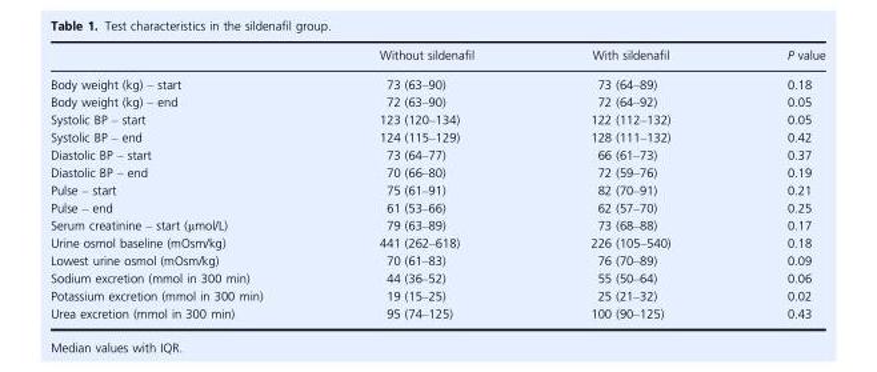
<table><thead><tr><td></td><td>Without sildenafil</td><td>With sildenafil</td><td>P value</td></tr></thead><tbody><tr><td>Body weight (kg) – start</td><td>73 (63–90)</td><td>73 (64–89)</td><td>0.18</td></tr><tr><td>Body weight (kg) – end</td><td>72 (63–90)</td><td>72 (64–92)</td><td>0.05</td></tr><tr><td>Systolic BP – start</td><td>123 (120–134)</td><td>122 (112–132)</td><td>0.05</td></tr><tr><td>Systolic BP – end</td><td>124 (115–129)</td><td>128 (111–132)</td><td>0.42</td></tr><tr><td>Diastolic BP – start</td><td>73 (64–77)</td><td>66 (61–73)</td><td>0.37</td></tr><tr><td>Diastolic BP – end</td><td>70 (66–80)</td><td>72 (59–76)</td><td>0.19</td></tr><tr><td>Pulse – start</td><td>75 (61–91)</td><td>82 (70–91)</td><td>0.21</td></tr><tr><td>Pulse – end</td><td>61 (53–66)</td><td>62 (57–70)</td><td>0.25</td></tr><tr><td>Serum creatinine – start (μmol/L)</td><td>79 (63–89)</td><td>73 (68–88)</td><td>0.17</td></tr><tr><td>Urine osmol baseline (mOsm/kg)</td><td>441 (262–618)</td><td>226 (105–540)</td><td>0.18</td></tr><tr><td>Lowest urine osmol (mOsm/kg)</td><td>70 (61–83)</td><td>76 (70–89)</td><td>0.09</td></tr><tr><td>Sodium excretion (mmol in 300 min)</td><td>44 (36–52)</td><td>55 (50–64)</td><td>0.06</td></tr><tr><td>Potassium excretion (mmol in 300 min)</td><td>19 (15–25)</td><td>25 (21–32)</td><td>0.02</td></tr><tr><td>Urea excretion (mmol in 300 min)</td><td>95 (74–125)</td><td>100 (90–125)</td><td>0.43</td></tr></tbody></table>